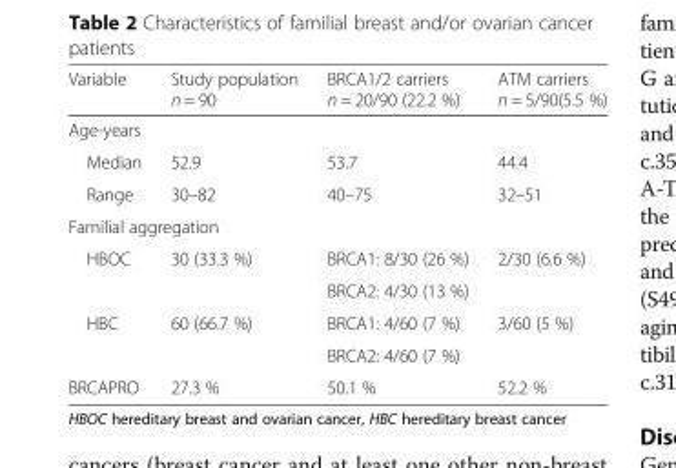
<table><thead><tr><td>Variable</td><td>Study population n = 90</td><td>BRCA1/2 carriers n = 20/90 (22.2 %)</td><td>ATM carriers n = 5/90(5.5 %)</td></tr></thead><tbody><tr><td colspan="4">Age-years</td></tr><tr><td>Median</td><td>52.9</td><td>53.7</td><td>44.4</td></tr><tr><td>Range</td><td>30–82</td><td>40–75</td><td>32–51</td></tr><tr><td colspan="4">Familial aggregation</td></tr><tr><td rowspan="2">HBOC</td><td>30 (33.3 %)</td><td>BRCA1: 8/30 (26 %)</td><td>2/30 (6.6 %)</td></tr><tr><td></td><td>BRCA2: 4/30 (13 %)</td><td></td></tr><tr><td rowspan="2">HBC</td><td rowspan="2">60 (66.7 %)</td><td>BRCA1: 4/60 (7 %)</td><td rowspan="2">3/60 (5 %)</td></tr><tr><td>BRCA2: 4/60 (7 %)</td></tr><tr><td>BRCAPRO</td><td>27.3 %</td><td>50.1 %</td><td>52.2 %</td></tr></tbody></table>